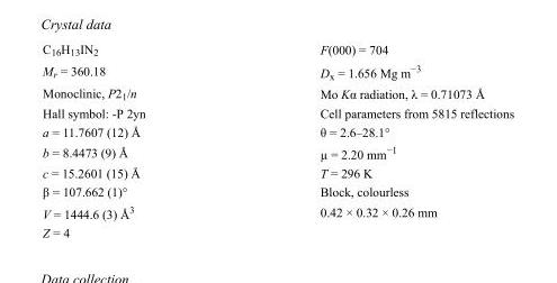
<table><tbody><tr><td>C<sub>16</sub>H<sub>13</sub>IN<sub>2</sub></td><td>F(000) = 704</td></tr><tr><td>M<sub>r</sub> = 360.18</td><td>D<sub>x</sub> = 1.656 Mg m<sup>−3</sup></td></tr><tr><td>Monoclinic, P2<sub>1</sub>/n</td><td>Mo Kα radiation, λ = 0.71073 Å</td></tr><tr><td>Hall symbol: -P 2yn</td><td>Cell parameters from 5815 reflections</td></tr><tr><td>a = 11.7607 (12) Å</td><td>θ = 2.6–28.1°</td></tr><tr><td>b = 8.4473 (9) Å</td><td>µ = 2.20 mm<sup>−1</sup></td></tr><tr><td>c = 15.2601 (15) Å</td><td>T = 296 K</td></tr><tr><td>β = 107.662 (1)°</td><td>Block, colourless</td></tr><tr><td>V = 1444.6 (3) Å<sup>3</sup></td><td>0.42 × 0.32 × 0.26 mm</td></tr><tr><td>Z = 4</td><td></td></tr></tbody></table>